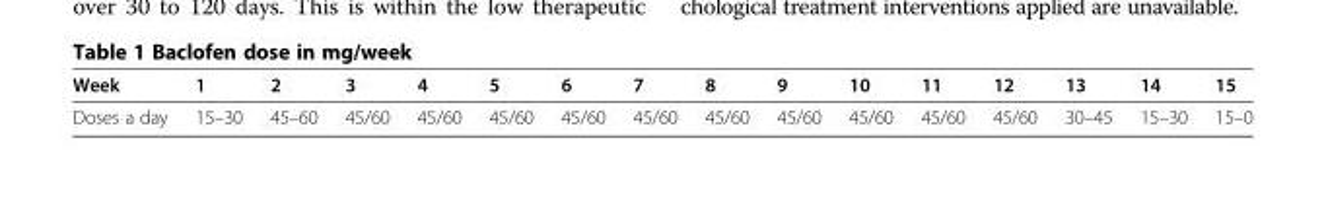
<table><thead><tr><td>Week</td><td>1</td><td>2</td><td>3</td><td>4</td><td>5</td><td>6</td><td>7</td><td>8</td><td>9</td><td>10</td><td>11</td><td>12</td><td>13</td><td>14</td><td>15</td></tr></thead><tbody><tr><td>Doses a day</td><td>15–30</td><td>45–60</td><td>45/60</td><td>45/60</td><td>45/60</td><td>45/60</td><td>45/60</td><td>45/60</td><td>45/60</td><td>45/60</td><td>45/60</td><td>45/60</td><td>30–45</td><td>15–30</td><td>15–0</td></tr></tbody></table>